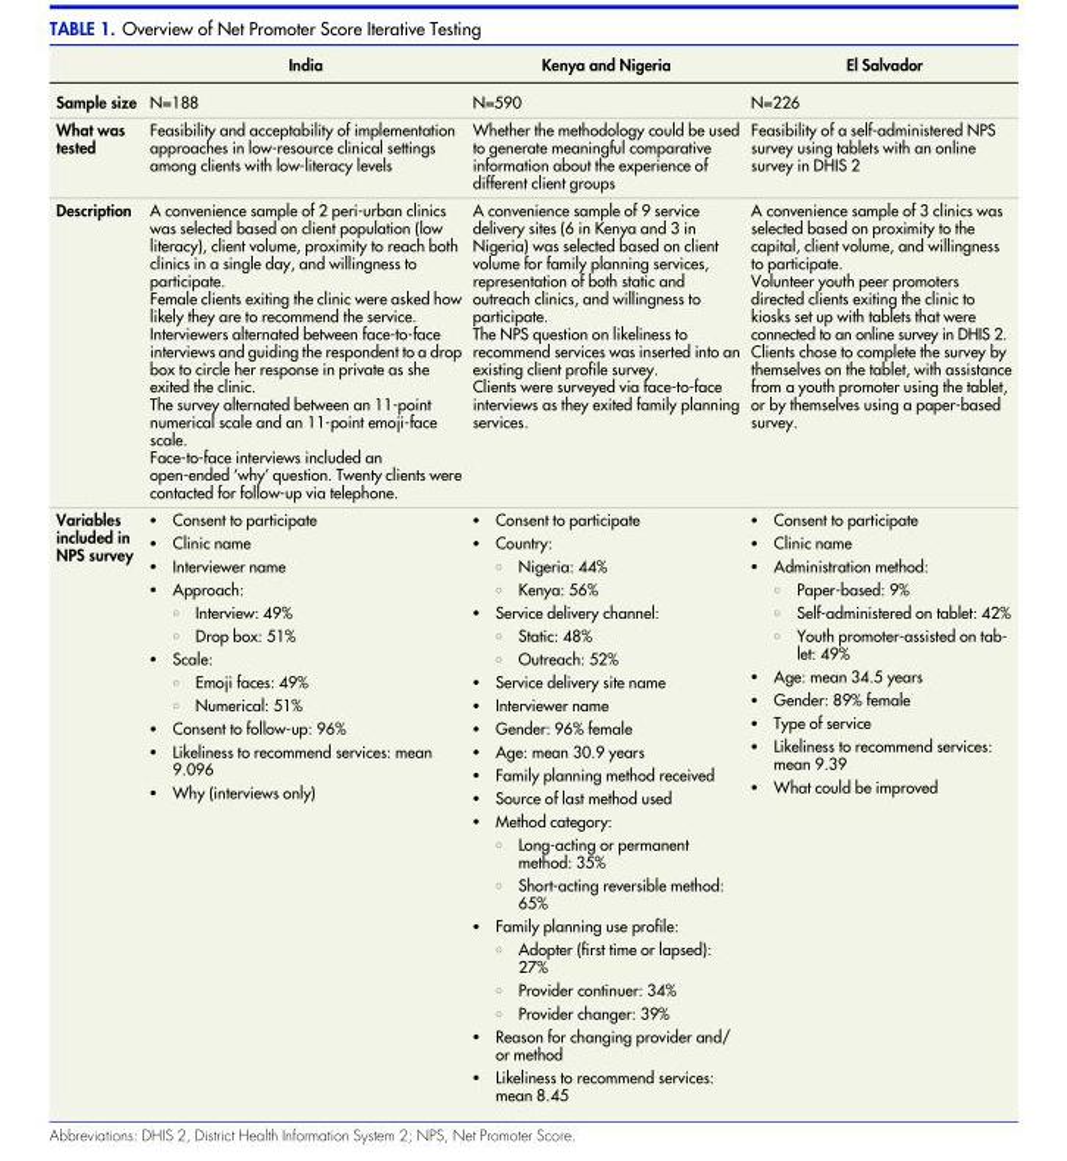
<table><thead><tr><td></td><td>India</td><td>Kenya and Nigeria</td><td>El Salvador</td></tr></thead><tbody><tr><td>Sample size</td><td>N=188</td><td>N=590</td><td>N=226</td></tr><tr><td>What was tested</td><td>Feasibility and acceptability of implementation approaches in low-resource clinical settings among clients with low-literacy levels</td><td>Whether the methodology could be used to generate meaningful comparative information about the experience of different client groups</td><td>Feasibility of a self-administered NPS survey using tablets with an online survey in DHIS 2</td></tr><tr><td>Description</td><td>A convenience sample of 2 peri-urban clinics was selected based on client population (low literacy), client volume, proximity to reach both clinics in a single day, and willingness to participate. Female clients exiting the clinic were asked how likely they are to recommend the service. Interviewers alternated between face-to-face interviews and guiding the respondent to a drop box to circle her response in private as she exited the clinic. The survey alternated between an 11-point numerical scale and an 11-point emoji-face scale. Face-to-face interviews included an open-ended ‘why’ question. Twenty clients were contacted for follow-up via telephone.</td><td>A convenience sample of 9 service delivery sites (6 in Kenya and 3 in Nigeria) was selected based on client volume for family planning services, representation of both static and outreach clinics, and willingness to participate. The NPS question on likeliness to recommend services was inserted into an existing client profile survey. Clients were surveyed via face-to-face interviews as they exited family planning services.</td><td>A convenience sample of 3 clinics was selected based on proximity to the capital, client volume, and willingness to participate. Volunteer youth peer promoters directed clients exiting the clinic to kiosks set up with tablets that were connected to an online survey in DHIS 2. Clients chose to complete the survey by themselves on the tablet, with assistance from a youth promoter using the tablet, or by themselves using a paper-based survey.</td></tr><tr><td>Variables included in NPS survey</td><td>� Consent to participate � Clinic name � Interviewer name � Approach: * Interview: 49% * Drop box: 51% � Scale: * Emoji faces: 49% * Numerical: 51% � Consent to follow-up: 96% � Likeliness to recommend services: mean 9.096 � Why (interviews only)</td><td>� Consent to participate � Country: * Nigeria: 44% * Kenya: 56% � Service delivery channel: * Static: 48% * Outreach: 52% � Service delivery site name � Interviewer name � Gender: 96% female � Age: mean 30.9 years � Family planning method received � Source of last method used � Method category: * Long-acting or permanent method: 35% * Short-acting reversible method: 65% � Family planning use profile: * Adopter (first time or lapsed): 27% * Provider continuer: 34% * Provider changer: 39% � Reason for changing provider and/ or method � Likeliness to recommend services: mean 8.45</td><td>� Consent to participate � Clinic name � Administration method: * Paper-based: 9% * Self-administered on tablet: 42% * Youth promoter-assisted on tab- let: 49% � Age: mean 34.5 years � Gender: 89% female � Type of service � Likeliness to recommend services: mean 9.39 � What could be improved</td></tr></tbody></table>